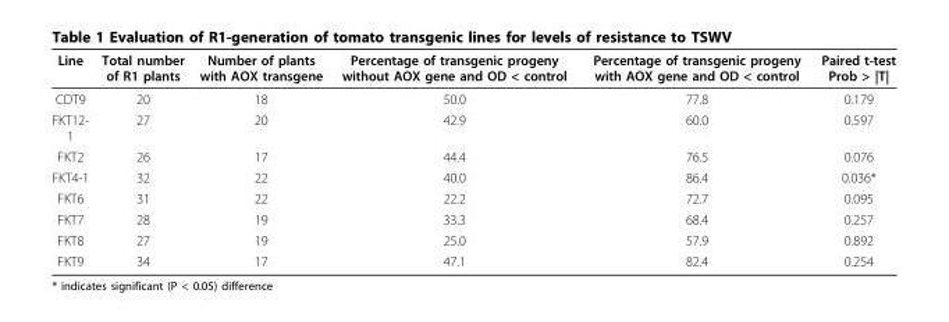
<table><thead><tr><td>Line</td><td>Total number of R1 plants</td><td>Number of plants with AOX transgene</td><td>Percentage of transgenic progeny without AOX gene and OD &lt; control</td><td>Percentage of transgenic progeny with AOX gene and OD &lt; control</td><td>Paired t-test Prob &gt; |T|</td></tr></thead><tbody><tr><td>CDT9</td><td>20</td><td>18</td><td>50.0</td><td>77.8</td><td>0.179</td></tr><tr><td>FKT12- 1</td><td>27</td><td>20</td><td>42.9</td><td>60.0</td><td>0.597</td></tr><tr><td>FKT2</td><td>26</td><td>17</td><td>44.4</td><td>76.5</td><td>0.076</td></tr><tr><td>FKT4-1</td><td>32</td><td>22</td><td>40.0</td><td>86.4</td><td>0.036*</td></tr><tr><td>FKT6</td><td>31</td><td>22</td><td>22.2</td><td>72.7</td><td>0.095</td></tr><tr><td>FKT7</td><td>28</td><td>19</td><td>33.3</td><td>68.4</td><td>0.257</td></tr><tr><td>FKT8</td><td>27</td><td>19</td><td>25.0</td><td>57.9</td><td>0.892</td></tr><tr><td>FKT9</td><td>34</td><td>17</td><td>47.1</td><td>82.4</td><td>0.254</td></tr></tbody></table>